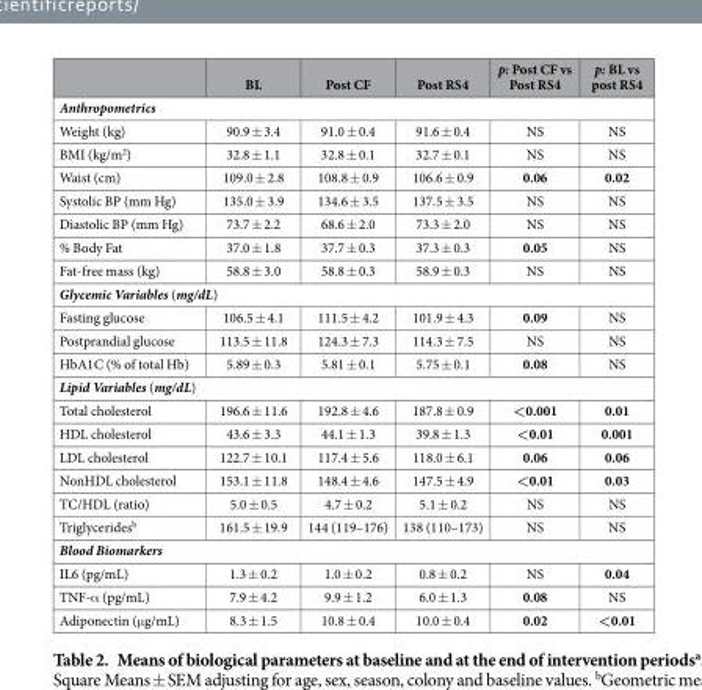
<table><thead><tr><td></td><td>BL</td><td>Post CF</td><td>Post RS4</td><td>p: Post CF vs Post RS4</td><td>p: BL vs post RS4</td></tr></thead><tbody><tr><td colspan="6">Anthropometrics</td></tr><tr><td>Weight (kg)</td><td>90.9 ± 3.4</td><td>91.0 ± 0.4</td><td>91.6 ± 0.4</td><td>NS</td><td>NS</td></tr><tr><td>BMI (kg/m<sup>2</sup>)</td><td>32.8 ± 1.1</td><td>32.8 ± 0.1</td><td>32.7 ± 0.1</td><td>NS</td><td>NS</td></tr><tr><td>Waist (cm)</td><td>109.0 ± 2.8</td><td>108.8 ± 0.9</td><td>106.6 ± 0.9</td><td>0.06</td><td>0.02</td></tr><tr><td>Systolic BP (mm Hg)</td><td>135.0 ± 3.9</td><td>134.6 ± 3.5</td><td>137.5 ± 3.5</td><td>NS</td><td>NS</td></tr><tr><td>Diastolic BP (mm Hg)</td><td>73.7 ± 2.2</td><td>68.6 ± 2.0</td><td>73.3 ± 2.0</td><td>NS</td><td>NS</td></tr><tr><td>% Body Fat</td><td>37.0 ± 1.8</td><td>37.7 ± 0.3</td><td>37.3 ± 0.3</td><td>0.05</td><td>NS</td></tr><tr><td>Fat-free mass (kg)</td><td>58.8 ± 3.0</td><td>58.8 ± 0.3</td><td>58.9 ± 0.3</td><td>NS</td><td>NS</td></tr><tr><td colspan="6">Glycemic Variables (mg/dL)</td></tr><tr><td>Fasting glucose</td><td>106.5 ± 4.1</td><td>111.5 ± 4.2</td><td>101.9 ± 4.3</td><td>0.09</td><td>NS</td></tr><tr><td>Postprandial glucose</td><td>113.5 ± 11.8</td><td>124.3 ± 7.3</td><td>114.3 ± 7.5</td><td>NS</td><td>NS</td></tr><tr><td>HbA1C (% of total Hb)</td><td>5.89 ± 0.3</td><td>5.81 ± 0.1</td><td>5.75 ± 0.1</td><td>0.08</td><td>NS</td></tr><tr><td colspan="6">Lipid Variables (mg/dL)</td></tr><tr><td>Total cholesterol</td><td>196.6 ± 11.6</td><td>192.8 ± 4.6</td><td>187.8 ± 0.9</td><td>&lt;0.001</td><td>0.01</td></tr><tr><td>HDL cholesterol</td><td>43.6 ± 3.3</td><td>44.1 ± 1.3</td><td>39.8 ± 1.3</td><td>&lt;0.01</td><td>0.001</td></tr><tr><td>LDL cholesterol</td><td>122.7 ± 10.1</td><td>117.4 ± 5.6</td><td>118.0 ± 6.1</td><td>0.06</td><td>0.06</td></tr><tr><td>NonHDL cholesterol</td><td>153.1 ± 11.8</td><td>148.4 ± 4.6</td><td>147.5 ± 4.9</td><td>&lt;0.01</td><td>0.03</td></tr><tr><td>TC/HDL (ratio)</td><td>5.0 ± 0.5</td><td>4.7 ± 0.2</td><td>5.1 ± 0.2</td><td>NS</td><td>NS</td></tr><tr><td>Triglycerides<sup>b</sup></td><td>161.5 ± 19.9</td><td>144 (119–176)</td><td>138 (110–173)</td><td>NS</td><td>NS</td></tr><tr><td colspan="6">Blood Biomarkers</td></tr><tr><td>IL6 (pg/mL)</td><td>1.3 ± 0.2</td><td>1.0 ± 0.2</td><td>0.8 ± 0.2</td><td>NS</td><td>0.04</td></tr><tr><td>TNF-α (pg/mL)</td><td>7.9 ± 4.2</td><td>9.9 ± 1.2</td><td>6.0 ± 1.3</td><td>0.08</td><td>NS</td></tr><tr><td>Adiponectin (μ g/mL)</td><td>8.3 ± 1.5</td><td>10.8 ± 0.4</td><td>10.0 ± 0.4</td><td>0.02</td><td>&lt;0.01</td></tr></tbody></table>